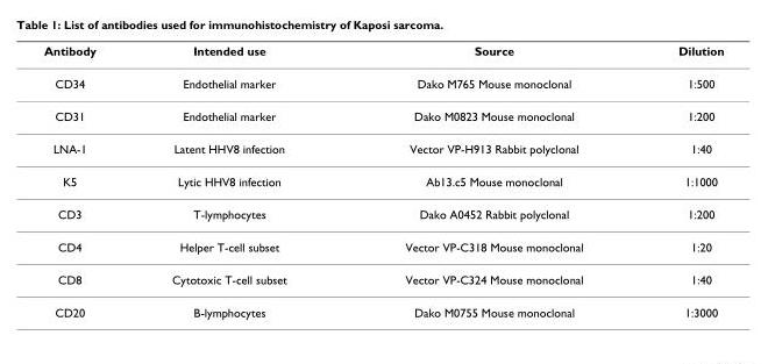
<table><thead><tr><td>Antibody</td><td>Intended use</td><td>Source</td><td>Dilution</td></tr></thead><tbody><tr><td>CD34</td><td>Endothelial marker</td><td>Dako M765 Mouse monoclonal</td><td>1:500</td></tr><tr><td>CD31</td><td>Endothelial marker</td><td>Dako M0823 Mouse monoclonal</td><td>1:200</td></tr><tr><td>LNA-1</td><td>Latent HHV8 infection</td><td>Vector VP-H913 Rabbit polyclonal</td><td>1:40</td></tr><tr><td>K5</td><td>Lytic HHV8 infection</td><td>Ab13.c5 Mouse monoclonal</td><td>1:1000</td></tr><tr><td>CD3</td><td>T-lymphocytes</td><td>Dako A0452 Rabbit polyclonal</td><td>1:200</td></tr><tr><td>CD4</td><td>Helper T-cell subset</td><td>Vector VP-C318 Mouse monoclonal</td><td>1:20</td></tr><tr><td>CD8</td><td>Cytotoxic T-cell subset</td><td>Vector VP-C324 Mouse monoclonal</td><td>1:40</td></tr><tr><td>CD20</td><td>B-lymphocytes</td><td>Dako M0755 Mouse monoclonal</td><td>1:3000</td></tr></tbody></table>